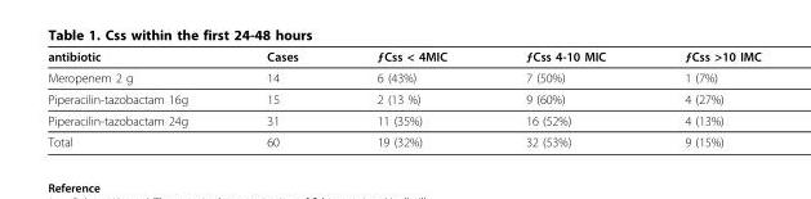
<table><thead><tr><td>antibiotic</td><td>Cases</td><td>ƒCss &lt; 4MIC</td><td>ƒCss 4-10 MIC</td><td>ƒCss &gt;10 IMC</td></tr></thead><tbody><tr><td>Meropenem 2 g</td><td>14</td><td>6 (43%)</td><td>7 (50%)</td><td>1 (7%)</td></tr><tr><td>Piperacilin-tazobactam 16g</td><td>15</td><td>2 (13 %)</td><td>9 (60%)</td><td>4 (27%)</td></tr><tr><td>Piperacilin-tazobactam 24g</td><td>31</td><td>11 (35%)</td><td>16 (52%)</td><td>4 (13%)</td></tr><tr><td>Total</td><td>60</td><td>19 (32%)</td><td>32 (53%)</td><td>9 (15%)</td></tr></tbody></table>